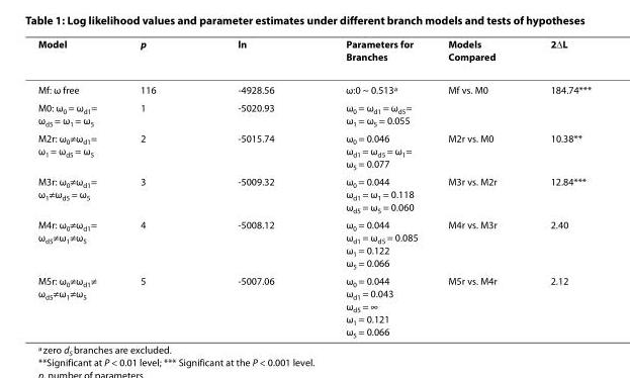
<table><thead><tr><td>Model</td><td>p</td><td>ln</td><td>Parameters for Branches</td><td>Models Compared</td><td>2ΔL</td></tr></thead><tbody><tr><td>Mf: ω free</td><td>116</td><td>-4928.56</td><td>ω:0 ~ 0.513<sup>a</sup></td><td>Mf vs. M0</td><td>184.74***</td></tr><tr><td>M0: ω<sub>0</sub> = ω<sub>d1</sub>= ω<sub>d5</sub> = ω<sub>1</sub> = ω<sub>5</sub></td><td>1</td><td>-5020.93</td><td>ω<sub>0</sub> = ω<sub>d1</sub> = ω<sub>d5</sub>= ω<sub>1</sub> = ω<sub>5</sub> = 0.055</td><td></td><td></td></tr><tr><td>M2r: ω<sub>0</sub>≠ω<sub>d1</sub>= ω<sub>1</sub> = ω<sub>d5</sub> = ω<sub>5</sub></td><td>2</td><td>-5015.74</td><td>ω<sub>0</sub> = 0.046 ω<sub>d1</sub> = ω<sub>d5</sub> = ω<sub>1</sub>= ω<sub>5</sub> = 0.077</td><td>M2r vs. M0</td><td>10.38**</td></tr><tr><td>M3r: ω<sub>0</sub>≠ω<sub>d1</sub>= ω<sub>1</sub>≠ω<sub>d5</sub> = ω<sub>5</sub></td><td>3</td><td>-5009.32</td><td>ω<sub>0</sub> = 0.044 ω<sub>d1</sub> = ω<sub>1</sub> = 0.118 ω<sub>d5</sub> = ω<sub>5</sub> = 0.060</td><td>M3r vs. M2r</td><td>12.84***</td></tr><tr><td>M4r: ω<sub>0</sub>≠ω<sub>d1</sub>= ω<sub>d5</sub>≠ω<sub>1</sub>≠ω<sub>5</sub></td><td>4</td><td>-5008.12</td><td>ω<sub>0</sub> = 0.044 ω<sub>d1</sub> = ω<sub>d5</sub> = 0.085 ω<sub>1</sub> = 0.122 ω<sub>5</sub> = 0.066</td><td>M4r vs. M3r</td><td>2.40</td></tr><tr><td>M5r: ω<sub>0</sub>≠ω<sub>d1</sub>≠ ω<sub>d5</sub>≠ω<sub>1</sub>≠ω<sub>5</sub></td><td>5</td><td>-5007.06</td><td>ω<sub>0</sub> = 0.044 ω<sub>d1</sub> = 0.043 ω<sub>d5</sub> = ∞ ω<sub>1</sub> = 0.121 ω<sub>5</sub> = 0.066</td><td>M5r vs. M4r</td><td>2.12</td></tr></tbody></table>